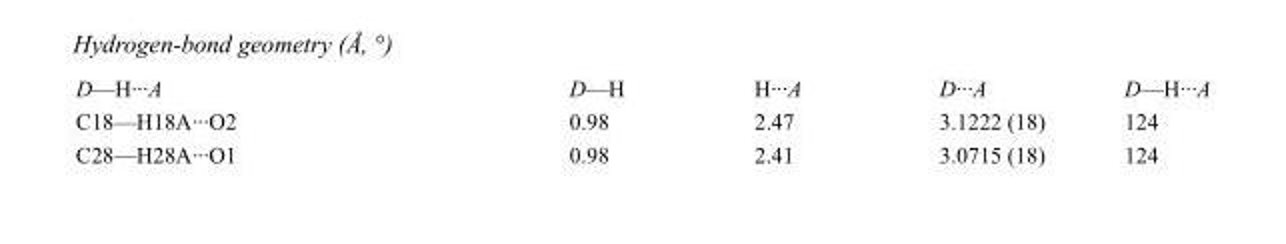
<table><tbody><tr><td>D—H···A</td><td>D—H</td><td>H···A</td><td>D···A</td><td>D—H···A</td></tr><tr><td>C18—H18A···O2</td><td>0.98</td><td>2.47</td><td>3.1222 (18)</td><td>124</td></tr><tr><td>C28—H28A···O1</td><td>0.98</td><td>2.41</td><td>3.0715 (18)</td><td>124</td></tr></tbody></table>